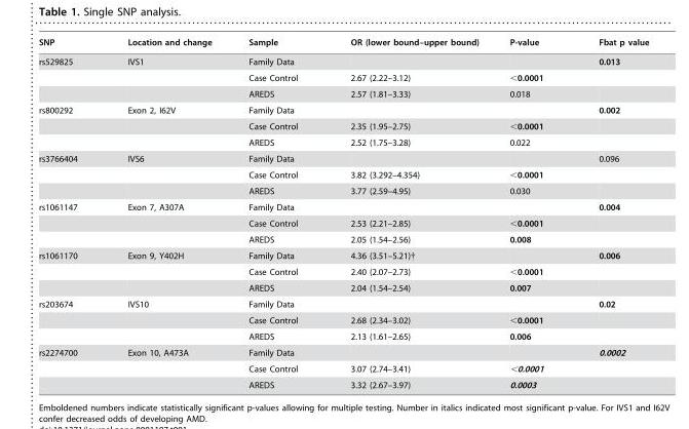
<table><thead><tr><td>SNP</td><td>Location and change</td><td>Sample</td><td>OR (lower bound–upper bound)</td><td>P-value</td><td>Fbat p value</td></tr></thead><tbody><tr><td rowspan="3">rs529825</td><td>IVS1</td><td>Family Data</td><td></td><td></td><td>0.013</td></tr><tr><td></td><td>Case Control</td><td>2.67 (2.22–3.12)</td><td>&lt;0.0001</td><td></td></tr><tr><td></td><td>AREDS</td><td>2.57 (1.81–3.33)</td><td>0.018</td><td></td></tr><tr><td rowspan="3">rs800292</td><td>Exon 2, I62V</td><td>Family Data</td><td></td><td></td><td>0.002</td></tr><tr><td></td><td>Case Control</td><td>2.35 (1.95–2.75)</td><td>&lt;0.0001</td><td></td></tr><tr><td></td><td>AREDS</td><td>2.52 (1.75–3.28)</td><td>0.022</td><td></td></tr><tr><td rowspan="3">rs3766404</td><td>IVS6</td><td>Family Data</td><td></td><td></td><td>0.096</td></tr><tr><td></td><td>Case Control</td><td>3.82 (3.292–4.354)</td><td>&lt;0.0001</td><td></td></tr><tr><td></td><td>AREDS</td><td>3.77 (2.59–4.95)</td><td>0.030</td><td></td></tr><tr><td rowspan="3">rs1061147</td><td>Exon 7, A307A</td><td>Family Data</td><td></td><td></td><td>0.004</td></tr><tr><td></td><td>Case Control</td><td>2.53 (2.21–2.85)</td><td>&lt;0.0001</td><td></td></tr><tr><td></td><td>AREDS</td><td>2.05 (1.54–2.56)</td><td>0.008</td><td></td></tr><tr><td rowspan="3">rs1061170</td><td>Exon 9, Y402H</td><td>Family Data</td><td>4.36 (3.51–5.21)†</td><td></td><td>0.006</td></tr><tr><td></td><td>Case Control</td><td>2.40 (2.07–2.73)</td><td>&lt;0.0001</td><td></td></tr><tr><td></td><td>AREDS</td><td>2.04 (1.54–2.54)</td><td>0.007</td><td></td></tr><tr><td rowspan="3">rs203674</td><td>IVS10</td><td>Family Data</td><td></td><td></td><td>0.02</td></tr><tr><td></td><td>Case Control</td><td>2.68 (2.34–3.02)</td><td>&lt;0.0001</td><td></td></tr><tr><td></td><td>AREDS</td><td>2.13 (1.61–2.65)</td><td>0.006</td><td></td></tr><tr><td rowspan="3">rs2274700</td><td>Exon 10, A473A</td><td>Family Data</td><td></td><td></td><td>0.0002</td></tr><tr><td></td><td>Case Control</td><td>3.07 (2.74–3.41)</td><td>&lt;0.0001</td><td></td></tr><tr><td></td><td>AREDS</td><td>3.32 (2.67–3.97)</td><td>0.0003</td><td></td></tr></tbody></table>